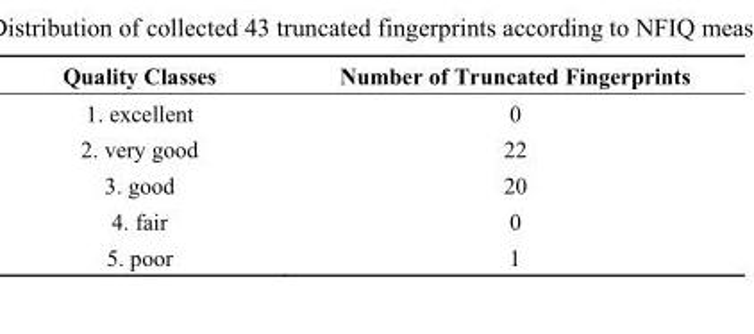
<table><thead><tr><td>Quality Classes</td><td>Number of Truncated Fingerprints</td></tr></thead><tbody><tr><td>1. excellent</td><td>0</td></tr><tr><td>2. very good</td><td>22</td></tr><tr><td>3. good</td><td>20</td></tr><tr><td>4. fair</td><td>0</td></tr><tr><td>5. poor</td><td>1</td></tr></tbody></table>